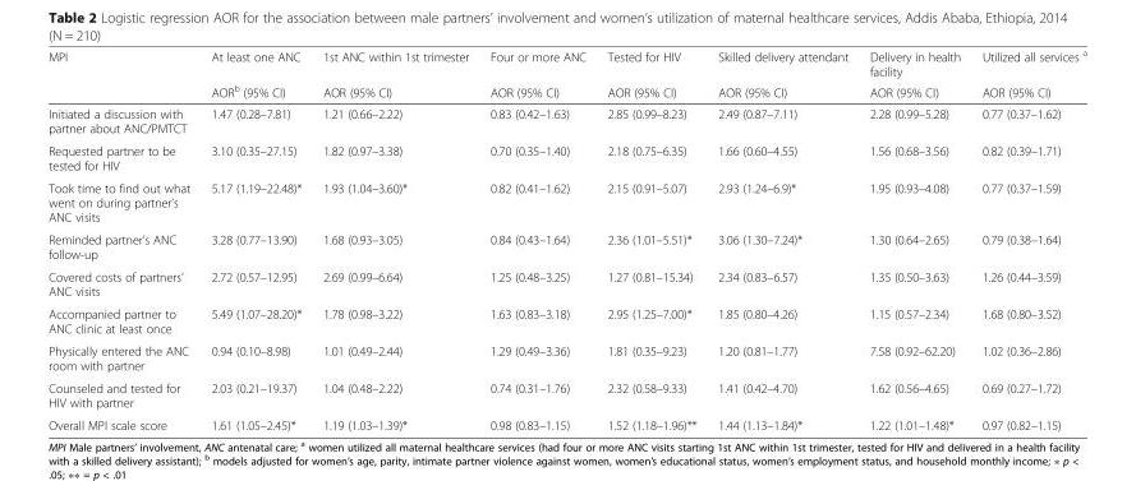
<table><thead><tr><td rowspan="2">MPI</td><td rowspan="2">At least one ANC AOR<sup>b</sup> (95% CI)</td><td rowspan="2">1st ANC within 1st trimester AOR (95% CI)</td><td rowspan="2">Four or more ANC AOR (95% CI)</td><td rowspan="2">Tested for HIV AOR (95% CI)</td><td rowspan="2">Skilled delivery attendant AOR (95% CI)</td><td rowspan="2">Delivery in health facility AOR (95% CI)</td><td rowspan="2">Utilized all services <sup>a</sup> AOR (95% CI)</td></tr><tr></tr></thead><tbody><tr><td>Initiated a discussion with partner about ANC/PMTCT</td><td>1.47 (0.28–7.81)</td><td>1.21 (0.66–2.22)</td><td>0.83 (0.42–1.63)</td><td>2.85 (0.99–8.23)</td><td>2.49 (0.87–7.11)</td><td>2.28 (0.99–5.28)</td><td>0.77 (0.37–1.62)</td></tr><tr><td>Requested partner to be tested for HIV</td><td>3.10 (0.35–27.15)</td><td>1.82 (0.97–3.38)</td><td>0.70 (0.35–1.40)</td><td>2.18 (0.75–6.35)</td><td>1.66 (0.60–4.55)</td><td>1.56 (0.68–3.56)</td><td>0.82 (0.39–1.71)</td></tr><tr><td>Took time to find out what went on during partner’s ANC visits</td><td>5.17 (1.19–22.48)*</td><td>1.93 (1.04–3.60)*</td><td>0.82 (0.41–1.62)</td><td>2.15 (0.91–5.07)</td><td>2.93 (1.24–6.9)*</td><td>1.95 (0.93–4.08)</td><td>0.77 (0.37–1.59)</td></tr><tr><td>Reminded partner’s ANC follow-up</td><td>3.28 (0.77–13.90)</td><td>1.68 (0.93–3.05)</td><td>0.84 (0.43–1.64)</td><td>2.36 (1.01–5.51)*</td><td>3.06 (1.30–7.24)*</td><td>1.30 (0.64–2.65)</td><td>0.79 (0.38–1.64)</td></tr><tr><td>Covered costs of partners’ ANC visits</td><td>2.72 (0.57–12.95)</td><td>2.69 (0.99–6.64)</td><td>1.25 (0.48–3.25)</td><td>1.27 (0.81–15.34)</td><td>2.34 (0.83–6.57)</td><td>1.35 (0.50–3.63)</td><td>1.26 (0.44–3.59)</td></tr><tr><td>Accompanied partner to ANC clinic at least once</td><td>5.49 (1.07–28.20)*</td><td>1.78 (0.98–3.22)</td><td>1.63 (0.83–3.18)</td><td>2.95 (1.25–7.00)*</td><td>1.85 (0.80–4.26)</td><td>1.15 (0.57–2.34)</td><td>1.68 (0.80–3.52)</td></tr><tr><td>Physically entered the ANC room with partner</td><td>0.94 (0.10–8.98)</td><td>1.01 (0.49–2.44)</td><td>1.29 (0.49–3.36)</td><td>1.81 (0.35–9.23)</td><td>1.20 (0.81–1.77)</td><td>7.58 (0.92–62.20)</td><td>1.02 (0.36–2.86)</td></tr><tr><td>Counseled and tested for HIV with partner</td><td>2.03 (0.21–19.37)</td><td>1.04 (0.48–2.22)</td><td>0.74 (0.31–1.76)</td><td>2.32 (0.58–9.33)</td><td>1.41 (0.42–4.70)</td><td>1.62 (0.56–4.65)</td><td>0.69 (0.27–1.72)</td></tr><tr><td>Overall MPI scale score</td><td>1.61 (1.05–2.45)*</td><td>1.19 (1.03–1.39)*</td><td>0.98 (0.83–1.15)</td><td>1.52 (1.18–1.96)**</td><td>1.44 (1.13–1.84)*</td><td>1.22 (1.01–1.48)*</td><td>0.97 (0.82–1.15)</td></tr></tbody></table>